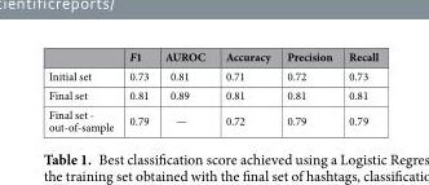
<table><thead><tr><td></td><td>F1</td><td>AUROC</td><td>Accuracy</td><td>Precision</td><td>Recall</td></tr></thead><tbody><tr><td>Initial set</td><td>0.73</td><td>0.81</td><td>0.71</td><td>0.72</td><td>0.73</td></tr><tr><td>Final set</td><td>0.81</td><td>0.89</td><td>0.81</td><td>0.81</td><td>0.81</td></tr><tr><td>Final set - out-of-sample</td><td>0.79</td><td>—</td><td>0.72</td><td>0.79</td><td>0.79</td></tr></tbody></table>